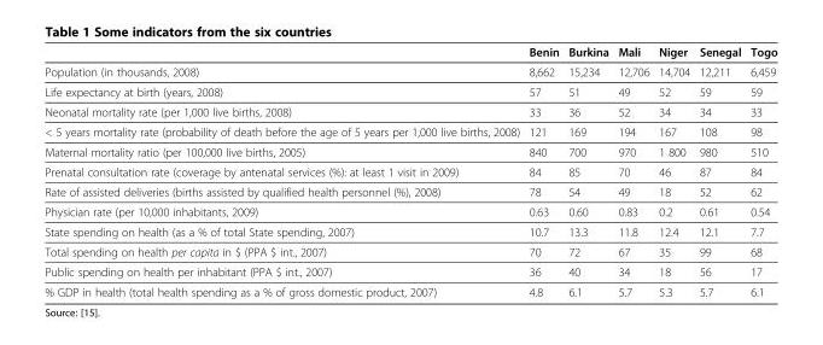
<table><thead><tr><td></td><td>Benin</td><td>Burkina</td><td>Mali</td><td>Niger</td><td>Senegal</td><td>Togo</td></tr></thead><tbody><tr><td>Population (in thousands, 2008)</td><td>8,662</td><td>15,234</td><td>12,706</td><td>14,704</td><td>12,211</td><td>6,459</td></tr><tr><td>Life expectancy at birth (years, 2008)</td><td>57</td><td>51</td><td>49</td><td>52</td><td>59</td><td>59</td></tr><tr><td>Neonatal mortality rate (per 1,000 live births, 2008)</td><td>33</td><td>36</td><td>52</td><td>34</td><td>34</td><td>33</td></tr><tr><td>&lt; 5 years mortality rate (probability of death before the age of 5 years per 1,000 live births, 2008)</td><td>121</td><td>169</td><td>194</td><td>167</td><td>108</td><td>98</td></tr><tr><td>Maternal mortality ratio (per 100,000 live births, 2005)</td><td>840</td><td>700</td><td>970</td><td>1 800</td><td>980</td><td>510</td></tr><tr><td>Prenatal consultation rate (coverage by antenatal services (%): at least 1 visit in 2009)</td><td>84</td><td>85</td><td>70</td><td>46</td><td>87</td><td>84</td></tr><tr><td>Rate of assisted deliveries (births assisted by qualified health personnel (%), 2008)</td><td>78</td><td>54</td><td>49</td><td>18</td><td>52</td><td>62</td></tr><tr><td>Physician rate (per 10,000 inhabitants, 2009)</td><td>0.63</td><td>0.60</td><td>0.83</td><td>0.2</td><td>0.61</td><td>0.54</td></tr><tr><td>State spending on health (as a % of total State spending, 2007)</td><td>10.7</td><td>13.3</td><td>11.8</td><td>12.4</td><td>12.1</td><td>7.7</td></tr><tr><td>Total spending on health per capita in $ (PPA $ int., 2007)</td><td>70</td><td>72</td><td>67</td><td>35</td><td>99</td><td>68</td></tr><tr><td>Public spending on health per inhabitant (PPA $ int., 2007)</td><td>36</td><td>40</td><td>34</td><td>18</td><td>56</td><td>17</td></tr><tr><td>% GDP in health (total health spending as a % of gross domestic product, 2007)</td><td>4.8</td><td>6.1</td><td>5.7</td><td>5.3</td><td>5.7</td><td>6.1</td></tr></tbody></table>